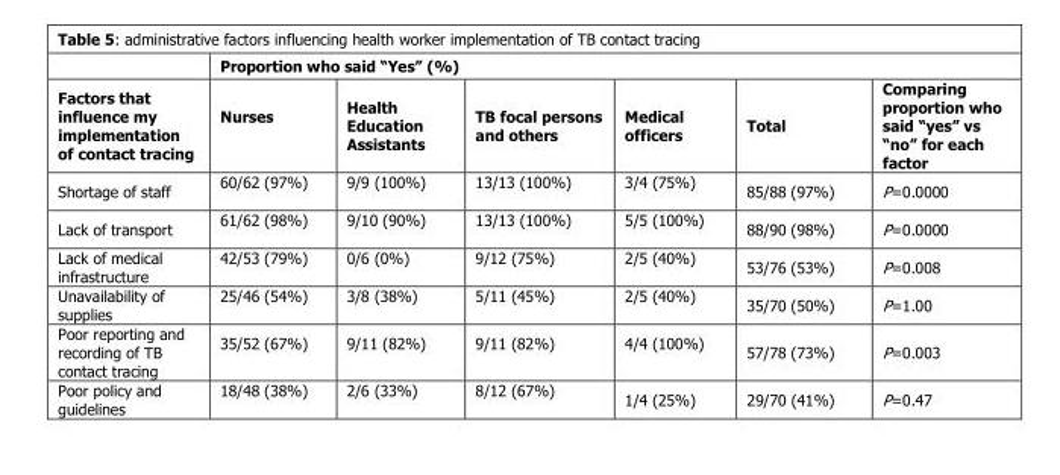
<table><thead><tr><td rowspan="2">Factors that influence my implementation of contact tracing</td><td colspan="6">Proportion who said “Yes” (%)</td></tr><tr><td>Nurses</td><td>Health Education Assistants</td><td>TB focal persons and others</td><td>Medical officers</td><td>Total</td><td>Comparing proportion who said “yes” vs “no” for each factor</td></tr></thead><tbody><tr><td>Shortage of staff</td><td>60/62 (97%)</td><td>9/9 (100%)</td><td>13/13 (100%)</td><td>3/4 (75%)</td><td>85/88 (97%)</td><td>P=0.0000</td></tr><tr><td>Lack of transport</td><td>61/62 (98%)</td><td>9/10 (90%)</td><td>13/13 (100%)</td><td>5/5 (100%)</td><td>88/90 (98%)</td><td>P=0.0000</td></tr><tr><td>Lack of medical infrastructure</td><td>42/53 (79%)</td><td>0/6 (0%)</td><td>9/12 (75%)</td><td>2/5 (40%)</td><td>53/76 (53%)</td><td>P=0.008</td></tr><tr><td>Unavailability of supplies</td><td>25/46 (54%)</td><td>3/8 (38%)</td><td>5/11 (45%)</td><td>2/5 (40%)</td><td>35/70 (50%)</td><td>P=1.00</td></tr><tr><td>Poor reporting and recording of TB contact tracing</td><td>35/52 (67%)</td><td>9/11 (82%)</td><td>9/11 (82%)</td><td>4/4 (100%)</td><td>57/78 (73%)</td><td>P=0.003</td></tr><tr><td>Poor policy and guidelines</td><td>18/48 (38%)</td><td>2/6 (33%)</td><td>8/12 (67%)</td><td>1/4 (25%)</td><td>29/70 (41%)</td><td>P=0.47</td></tr></tbody></table>